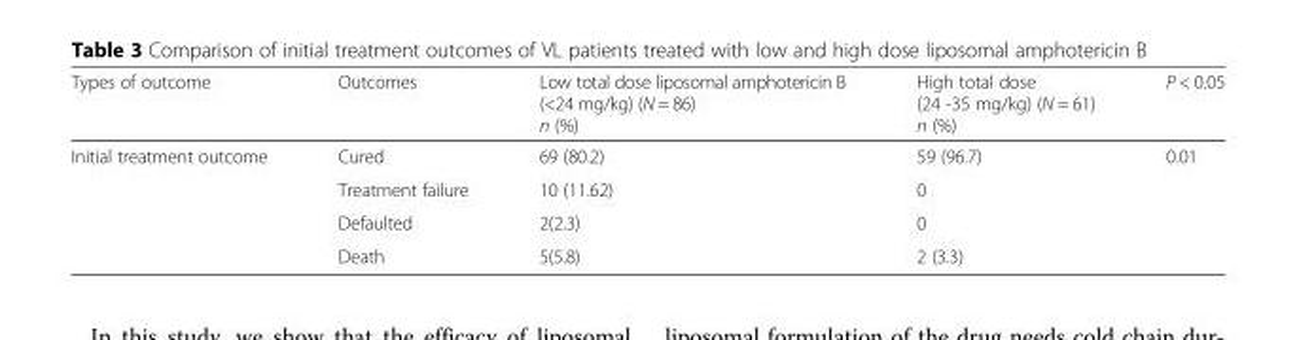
<table><thead><tr><td>Types of outcome</td><td>Outcomes</td><td>Low total dose liposomal amphotericin B (&lt;24 mg/kg) (N = 86) n (%)</td><td>High total dose (24 -35 mg/kg) (N = 61) n (%)</td><td>P &lt; 0.05</td></tr></thead><tbody><tr><td rowspan="4">Initial treatment outcome</td><td>Cured</td><td>69 (80.2)</td><td>59 (96.7)</td><td>0.01</td></tr><tr><td>Treatment failure</td><td>10 (11.62)</td><td>0</td><td></td></tr><tr><td>Defaulted</td><td>2(2.3)</td><td>0</td><td></td></tr><tr><td>Death</td><td>5(5.8)</td><td>2 (3.3)</td><td></td></tr></tbody></table>